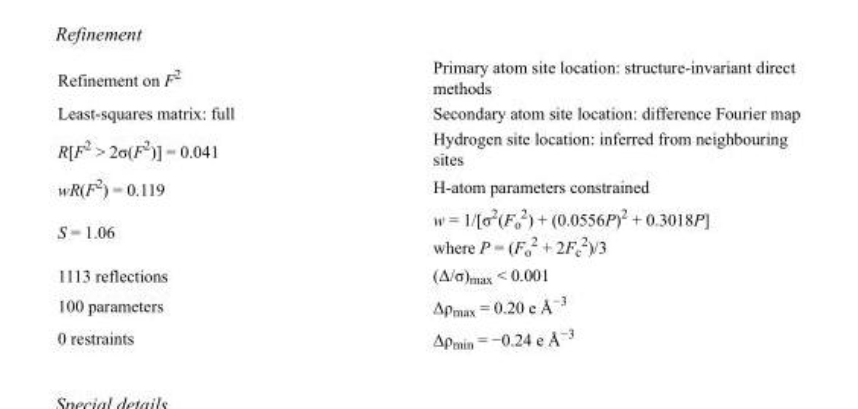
<table><tbody><tr><td>Refinement on F<sup>2</sup></td><td>Primary atom site location: structure-invariant direct methods</td></tr><tr><td>Least-squares matrix: full</td><td>Secondary atom site location: difference Fourier map</td></tr><tr><td>R[F<sup>2</sup> &gt; 2σ(F<sup>2</sup>)] = 0.041</td><td>Hydrogen site location: inferred from neighbouring sites</td></tr><tr><td>wR(F<sup>2</sup>) = 0.119</td><td>H-atom parameters constrained</td></tr><tr><td>S = 1.06</td><td>w = 1/[σ<sup>2</sup>(F<sub>o</sub> <sup>2</sup>) + (0.0556P)<sup>2</sup> + 0.3018P] where P = (F<sub>o</sub> <sup>2</sup> + 2F<sub>c</sub> <sup>2</sup>)/3</td></tr><tr><td>1113 reflections</td><td>(Δ/σ)<sub>max</sub> &lt; 0.001</td></tr><tr><td>100 parameters</td><td>Δρ<sub>max</sub> = 0.20 e Å<sup>−3</sup></td></tr><tr><td>0 restraints</td><td>Δρ<sub>min</sub> = −0.24 e Å<sup>−3</sup></td></tr></tbody></table>